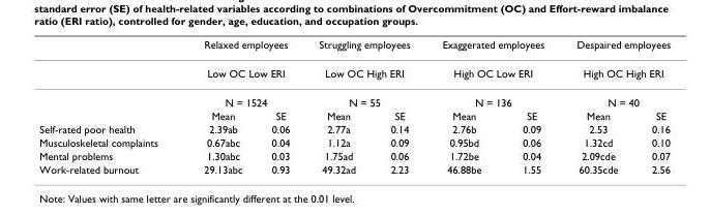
<table><thead><tr><td rowspan="4"></td><td rowspan="3" colspan="2">Relaxed employees Low OC Low ERI N = 1524</td><td rowspan="3" colspan="2">Struggling employees Low OC High ERI N = 55</td><td rowspan="3" colspan="2">Exaggerated employees High OC Low ERI N = 136</td><td rowspan="3" colspan="2">Despaired employees High OC High ERI N = 40</td></tr><tr></tr><tr></tr><tr><td>Mean</td><td>SE</td><td>Mean</td><td>SE</td><td>Mean</td><td>SE</td><td>Mean</td><td>SE</td></tr></thead><tbody><tr><td>Self-rated poor health</td><td>2.39ab</td><td>0.06</td><td>2.77a</td><td>0.14</td><td>2.76b</td><td>0.09</td><td>2.53</td><td>0.16</td></tr><tr><td>Musculoskeletal complaints</td><td>0.67abc</td><td>0.04</td><td>1.12a</td><td>0.09</td><td>0.95bd</td><td>0.06</td><td>1.32cd</td><td>0.10</td></tr><tr><td>Mental problems</td><td>1.30abc</td><td>0.03</td><td>1.75ad</td><td>0.06</td><td>1.72be</td><td>0.04</td><td>2.09cde</td><td>0.07</td></tr><tr><td>Work-related burnout</td><td>29.13abc</td><td>0.93</td><td>49.32ad</td><td>2.23</td><td>46.88be</td><td>1.55</td><td>60.35cde</td><td>2.56</td></tr></tbody></table>